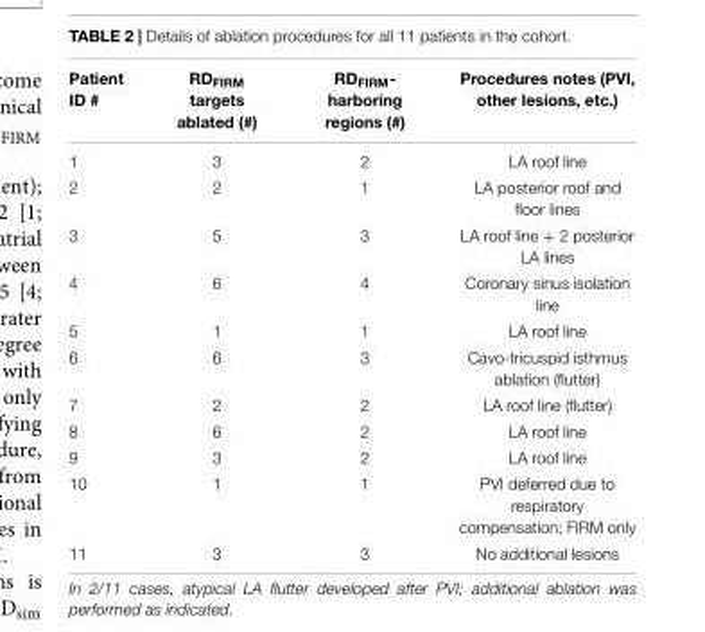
<table><thead><tr><td>Patient ID #</td><td>RD<sub>FIRM</sub> targets ablated (#)</td><td>RD<sub>FIRM</sub>- harboring regions (#)</td><td>Procedures notes (PVI, other lesions, etc.)</td></tr></thead><tbody><tr><td>1</td><td>3</td><td>2</td><td>LA roof line</td></tr><tr><td>2</td><td>2</td><td>1</td><td>LA posterior roof and floor lines</td></tr><tr><td>3</td><td>5</td><td>3</td><td>LA roof line + 2 posterior LA lines</td></tr><tr><td>4</td><td>6</td><td>4</td><td>Coronary sinus isolation line</td></tr><tr><td>5</td><td>1</td><td>1</td><td>LA roof line</td></tr><tr><td>6</td><td>6</td><td>3</td><td>Cavo-tricuspid isthmus ablation (flutter)</td></tr><tr><td>7</td><td>2</td><td>2</td><td>LA roof line (flutter)</td></tr><tr><td>8</td><td>6</td><td>2</td><td>LA roof line</td></tr><tr><td>9</td><td>3</td><td>2</td><td>LA roof line</td></tr><tr><td>10</td><td>1</td><td>1</td><td>PVI deferred due to respiratory compensation; FIRM only</td></tr><tr><td>11</td><td>3</td><td>3</td><td>No additional lesions</td></tr></tbody></table>